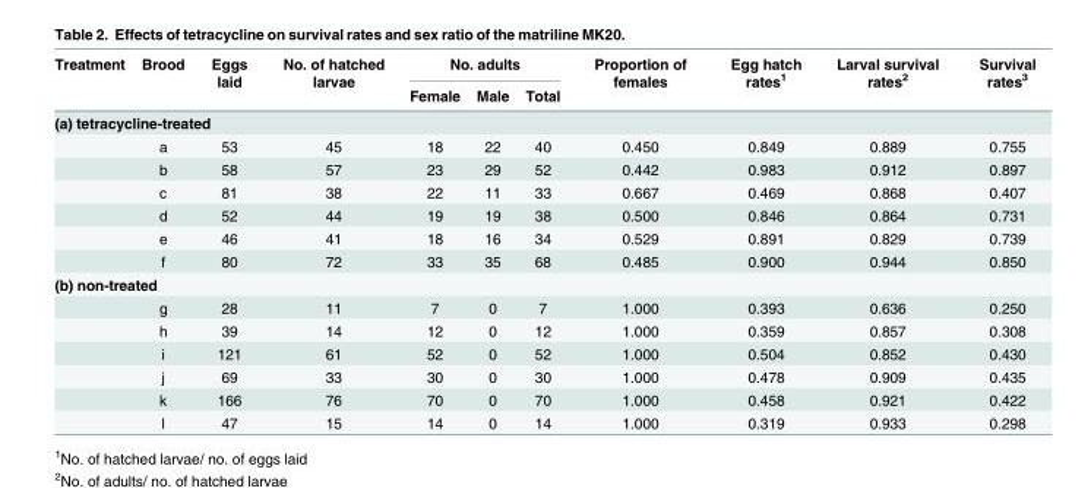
<table><thead><tr><td rowspan="2">Treatment</td><td rowspan="2">Brood</td><td rowspan="2">Eggs laid</td><td rowspan="2">No. of hatched larvae</td><td colspan="3">No. adults</td><td rowspan="2">Proportion of females</td><td rowspan="2">Egg hatch rates<sup>1</sup></td><td rowspan="2">Larval survival rates<sup>2</sup></td><td rowspan="2">Survival rates<sup>3</sup></td></tr><tr><td>Female</td><td>Male</td><td>Total</td></tr></thead><tbody><tr><td colspan="11">(a) tetracycline-treated</td></tr><tr><td></td><td>a</td><td>53</td><td>45</td><td>18</td><td>22</td><td>40</td><td>0.450</td><td>0.849</td><td>0.889</td><td>0.755</td></tr><tr><td></td><td>b</td><td>58</td><td>57</td><td>23</td><td>29</td><td>52</td><td>0.442</td><td>0.983</td><td>0.912</td><td>0.897</td></tr><tr><td></td><td>c</td><td>81</td><td>38</td><td>22</td><td>11</td><td>33</td><td>0.667</td><td>0.469</td><td>0.868</td><td>0.407</td></tr><tr><td></td><td>d</td><td>52</td><td>44</td><td>19</td><td>19</td><td>38</td><td>0.500</td><td>0.846</td><td>0.864</td><td>0.731</td></tr><tr><td></td><td>e</td><td>46</td><td>41</td><td>18</td><td>16</td><td>34</td><td>0.529</td><td>0.891</td><td>0.829</td><td>0.739</td></tr><tr><td></td><td>f</td><td>80</td><td>72</td><td>33</td><td>35</td><td>68</td><td>0.485</td><td>0.900</td><td>0.944</td><td>0.850</td></tr><tr><td colspan="11">(b) non-treated</td></tr><tr><td></td><td>g</td><td>28</td><td>11</td><td>7</td><td>0</td><td>7</td><td>1.000</td><td>0.393</td><td>0.636</td><td>0.250</td></tr><tr><td></td><td>h</td><td>39</td><td>14</td><td>12</td><td>0</td><td>12</td><td>1.000</td><td>0.359</td><td>0.857</td><td>0.308</td></tr><tr><td></td><td>i</td><td>121</td><td>61</td><td>52</td><td>0</td><td>52</td><td>1.000</td><td>0.504</td><td>0.852</td><td>0.430</td></tr><tr><td></td><td>j</td><td>69</td><td>33</td><td>30</td><td>0</td><td>30</td><td>1.000</td><td>0.478</td><td>0.909</td><td>0.435</td></tr><tr><td></td><td>k</td><td>166</td><td>76</td><td>70</td><td>0</td><td>70</td><td>1.000</td><td>0.458</td><td>0.921</td><td>0.422</td></tr><tr><td></td><td>l</td><td>47</td><td>15</td><td>14</td><td>0</td><td>14</td><td>1.000</td><td>0.319</td><td>0.933</td><td>0.298</td></tr></tbody></table>